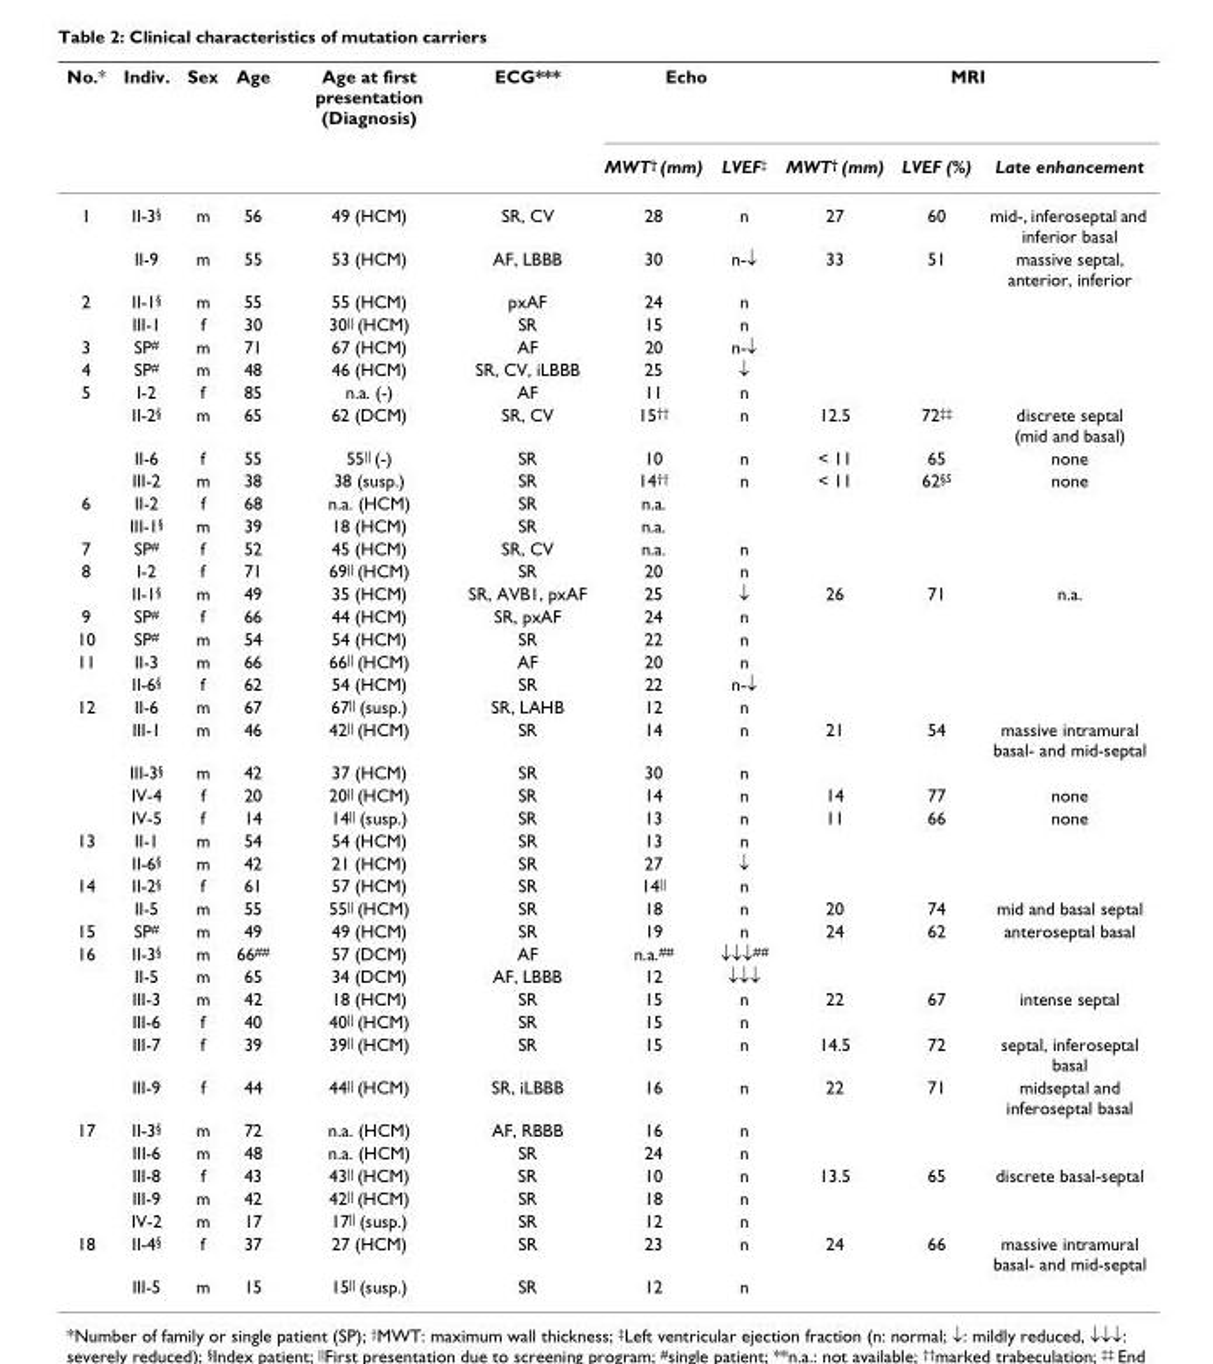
<table><thead><tr><td rowspan="2">No.*</td><td rowspan="2">Indiv.</td><td rowspan="2">Sex</td><td rowspan="2">Age</td><td rowspan="2">Age at first presentation (Diagnosis)</td><td rowspan="2">ECG***</td><td colspan="2">Echo</td><td colspan="3">MRI</td></tr><tr><td>MWT<sup>†</sup> (mm)</td><td>LVEF<sup>‡</sup></td><td>MWT<sup>†</sup> (mm)</td><td>LVEF (%)</td><td>Late enhancement</td></tr></thead><tbody><tr><td rowspan="2">1</td><td>II-3<sup>§</sup></td><td>m</td><td>56</td><td>49 (HCM)</td><td>SR, CV</td><td>28</td><td>n</td><td>27</td><td>60</td><td>mid-, inferoseptal and inferior basal</td></tr><tr><td>II-9</td><td>m</td><td>55</td><td>53 (HCM)</td><td>AF, LBBB</td><td>30</td><td>n-↓</td><td>33</td><td>51</td><td>massive septal, anterior, inferior</td></tr><tr><td rowspan="2">2</td><td>II-1<sup>§</sup></td><td>m</td><td>55</td><td>55 (HCM)</td><td>pxAF</td><td>24</td><td>n</td><td></td><td></td><td></td></tr><tr><td>III-1</td><td>f</td><td>30</td><td>30<sup>||</sup> (HCM)</td><td>SR</td><td>15</td><td>n</td><td></td><td></td><td></td></tr><tr><td>3</td><td>SP<sup>#</sup></td><td>m</td><td>71</td><td>67 (HCM)</td><td>AF</td><td>20</td><td>n-↓</td><td></td><td></td><td></td></tr><tr><td>4</td><td>SP<sup>#</sup></td><td>m</td><td>48</td><td>46 (HCM)</td><td>SR, CV, iLBBB</td><td>25</td><td>↓</td><td></td><td></td><td></td></tr><tr><td rowspan="4">5</td><td>I-2</td><td>f</td><td>85</td><td>n.a. (-)</td><td>AF</td><td>11</td><td>n</td><td></td><td></td><td></td></tr><tr><td>II-2<sup>§</sup></td><td>m</td><td>65</td><td>62 (DCM)</td><td>SR, CV</td><td>15<sup>††</sup></td><td>n</td><td>12.5</td><td>72<sup>‡‡</sup></td><td>discrete septal (mid and basal)</td></tr><tr><td>II-6</td><td>f</td><td>55</td><td>55<sup>||</sup> (-)</td><td>SR</td><td>10</td><td>n</td><td>&lt; 11</td><td>65</td><td>none</td></tr><tr><td>III-2</td><td>m</td><td>38</td><td>38 (susp.)</td><td>SR</td><td>14<sup>††</sup></td><td>n</td><td>&lt; 11</td><td>62<sup>§S</sup></td><td>none</td></tr><tr><td rowspan="2">6</td><td>II-2</td><td>f</td><td>68</td><td>n.a. (HCM)</td><td>SR</td><td>n.a.</td><td></td><td></td><td></td><td></td></tr><tr><td>III-1<sup>§</sup></td><td>m</td><td>39</td><td>18 (HCM)</td><td>SR</td><td>n.a.</td><td></td><td></td><td></td><td></td></tr><tr><td>7</td><td>SP<sup>#</sup></td><td>f</td><td>52</td><td>45 (HCM)</td><td>SR, CV</td><td>n.a.</td><td>n</td><td></td><td></td><td></td></tr><tr><td rowspan="2">8</td><td>I-2</td><td>f</td><td>71</td><td>69<sup>||</sup> (HCM)</td><td>SR</td><td>20</td><td>n</td><td></td><td></td><td></td></tr><tr><td>II-1<sup>§</sup></td><td>m</td><td>49</td><td>35 (HCM)</td><td>SR, AVB1, pxAF</td><td>25</td><td>↓</td><td>26</td><td>71</td><td>n.a.</td></tr><tr><td>9</td><td>SP<sup>#</sup></td><td>f</td><td>66</td><td>44 (HCM)</td><td>SR, pxAF</td><td>24</td><td>n</td><td></td><td></td><td></td></tr><tr><td>10</td><td>SP<sup>#</sup></td><td>m</td><td>54</td><td>54 (HCM)</td><td>SR</td><td>22</td><td>n</td><td></td><td></td><td></td></tr><tr><td rowspan="2">11</td><td>II-3</td><td>m</td><td>66</td><td>66<sup>||</sup> (HCM)</td><td>AF</td><td>20</td><td>n</td><td></td><td></td><td></td></tr><tr><td>II-6<sup>§</sup></td><td>f</td><td>62</td><td>54 (HCM)</td><td>SR</td><td>22</td><td>n-↓</td><td></td><td></td><td></td></tr><tr><td rowspan="5">12</td><td>II-6</td><td>m</td><td>67</td><td>67<sup>||</sup> (susp.)</td><td>SR, LAHB</td><td>12</td><td>n</td><td></td><td></td><td></td></tr><tr><td>III-1</td><td>m</td><td>46</td><td>42<sup>||</sup> (HCM)</td><td>SR</td><td>14</td><td>n</td><td>21</td><td>54</td><td>massive intramural basal- and mid-septal</td></tr><tr><td>III-3<sup>§</sup></td><td>m</td><td>42</td><td>37 (HCM)</td><td>SR</td><td>30</td><td>n</td><td></td><td></td><td></td></tr><tr><td>IV-4</td><td>f</td><td>20</td><td>20<sup>||</sup> (HCM)</td><td>SR</td><td>14</td><td>n</td><td>14</td><td>77</td><td>none</td></tr><tr><td>IV-5</td><td>f</td><td>14</td><td>14<sup>||</sup> (susp.)</td><td>SR</td><td>13</td><td>n</td><td>11</td><td>66</td><td>none</td></tr><tr><td rowspan="2">13</td><td>II-1</td><td>m</td><td>54</td><td>54 (HCM)</td><td>SR</td><td>13</td><td>n</td><td></td><td></td><td></td></tr><tr><td>II-6<sup>§</sup></td><td>m</td><td>42</td><td>21 (HCM)</td><td>SR</td><td>27</td><td>↓</td><td></td><td></td><td></td></tr><tr><td rowspan="2">14</td><td>II-2<sup>§</sup></td><td>f</td><td>61</td><td>57 (HCM)</td><td>SR</td><td>14<sup>||</sup></td><td>n</td><td></td><td></td><td></td></tr><tr><td>II-5</td><td>m</td><td>55</td><td>55<sup>||</sup> (HCM)</td><td>SR</td><td>18</td><td>n</td><td>20</td><td>74</td><td>mid and basal septal</td></tr><tr><td>15</td><td>SP<sup>#</sup></td><td>m</td><td>49</td><td>49 (HCM)</td><td>SR</td><td>19</td><td>n</td><td>24</td><td>62</td><td>anteroseptal basal</td></tr><tr><td rowspan="6">16</td><td>II-3<sup>§</sup></td><td>m</td><td>66<sup>##</sup></td><td>57 (DCM)</td><td>AF</td><td>n.a.<sup>##</sup></td><td>↓↓↓<sup>##</sup></td><td></td><td></td><td></td></tr><tr><td>II-5</td><td>m</td><td>65</td><td>34 (DCM)</td><td>AF, LBBB</td><td>12</td><td>↓↓↓</td><td></td><td></td><td></td></tr><tr><td>III-3</td><td>m</td><td>42</td><td>18 (HCM)</td><td>SR</td><td>15</td><td>n</td><td>22</td><td>67</td><td>intense septal</td></tr><tr><td>III-6</td><td>f</td><td>40</td><td>40<sup>||</sup> (HCM)</td><td>SR</td><td>15</td><td>n</td><td></td><td></td><td></td></tr><tr><td>III-7</td><td>f</td><td>39</td><td>39<sup>||</sup> (HCM)</td><td>SR</td><td>15</td><td>n</td><td>14.5</td><td>72</td><td>septal, inferoseptal basal</td></tr><tr><td>III-9</td><td>f</td><td>44</td><td>44<sup>||</sup> (HCM)</td><td>SR, iLBBB</td><td>16</td><td>n</td><td>22</td><td>71</td><td>midseptal and inferoseptal basal</td></tr><tr><td rowspan="5">17</td><td>II-3<sup>§</sup></td><td>m</td><td>72</td><td>n.a. (HCM)</td><td>AF, RBBB</td><td>16</td><td>n</td><td></td><td></td><td></td></tr><tr><td>III-6</td><td>m</td><td>48</td><td>n.a. (HCM)</td><td>SR</td><td>24</td><td>n</td><td></td><td></td><td></td></tr><tr><td>III-8</td><td>f</td><td>43</td><td>43<sup>||</sup> (HCM)</td><td>SR</td><td>10</td><td>n</td><td>13.5</td><td>65</td><td>discrete basal-septal</td></tr><tr><td>III-9</td><td>m</td><td>42</td><td>42<sup>||</sup> (HCM)</td><td>SR</td><td>18</td><td>n</td><td></td><td></td><td></td></tr><tr><td>IV-2</td><td>m</td><td>17</td><td>17<sup>||</sup> (susp.)</td><td>SR</td><td>12</td><td>n</td><td></td><td></td><td></td></tr><tr><td rowspan="2">18</td><td>II-4<sup>§</sup></td><td>f</td><td>37</td><td>27 (HCM)</td><td>SR</td><td>23</td><td>n</td><td>24</td><td>66</td><td>massive intramural basal- and mid-septal</td></tr><tr><td>III-5</td><td>m</td><td>15</td><td>15<sup>||</sup> (susp.)</td><td>SR</td><td>12</td><td>n</td><td></td><td></td><td></td></tr></tbody></table>